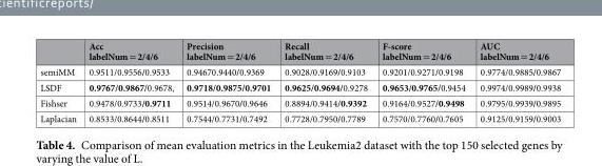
<table><thead><tr><td></td><td>Acc labelNum = 2/4/6</td><td>Precision labelNum = 2/4/6</td><td>Recall labelNum = 2/4/6</td><td>F-score labelNum = 2/4/6</td><td>AUC labelNum = 2/4/6</td></tr></thead><tbody><tr><td>semiMM</td><td>0.9511/0.9556/0.9533</td><td>0.94670.9440/0.9369</td><td>0.9028/0.9169/0.9103</td><td>0.9201/0.9271/0.9198</td><td>0.9774/0.9885/0.9867</td></tr><tr><td>LSDF</td><td>0.9767/0.9867/0.9678,</td><td>0.9718/0.9875/0.9701</td><td>0.9625/0.9694/0.9278</td><td>0.9653/0.9765/0.9454</td><td>0.9974/0.9989/0.9938</td></tr><tr><td>Fishser</td><td>0.9478/0.9733/0.9711</td><td>0.9514/0.9670/0.9646</td><td>0.8894/0.9414/0.9392</td><td>0.9164/0.9527/0.9498</td><td>0.9795/0.9939/0.9895</td></tr><tr><td>Laplacian</td><td>0.8533/0.8644/0.8511</td><td>0.7544/0.7731/0.7492</td><td>0.7728/0.7950/0.7789</td><td>0.7570/0.7760/0.7605</td><td>0.9125/0.9159/0.9003</td></tr></tbody></table>